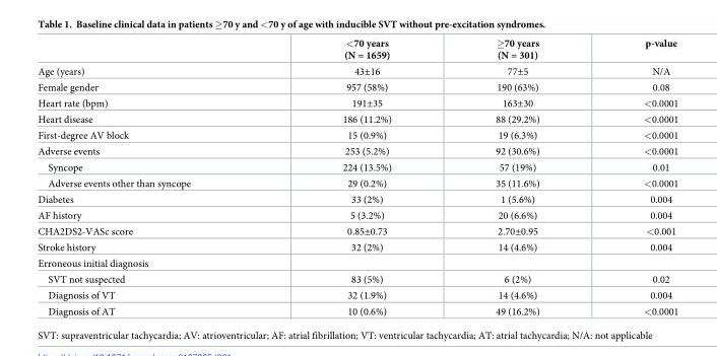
<table><thead><tr><td></td><td>&lt;70 years (N = 1659)</td><td>≥70 years (N = 301)</td><td>p-value</td></tr></thead><tbody><tr><td>Age (years)</td><td>43±16</td><td>77±5</td><td>N/A</td></tr><tr><td>Female gender</td><td>957 (58%)</td><td>190 (63%)</td><td>0.08</td></tr><tr><td>Heart rate (bpm)</td><td>191±35</td><td>163±30</td><td>&lt;0.0001</td></tr><tr><td>Heart disease</td><td>186 (11.2%)</td><td>88 (29.2%)</td><td>&lt;0.0001</td></tr><tr><td>First-degree AV block</td><td>15 (0.9%)</td><td>19 (6.3%)</td><td>&lt;0.0001</td></tr><tr><td>Adverse events</td><td>253 (5.2%)</td><td>92 (30.6%)</td><td>&lt;0.0001</td></tr><tr><td>Syncope</td><td>224 (13.5%)</td><td>57 (19%)</td><td>0.01</td></tr><tr><td>Adverse events other than syncope</td><td>29 (0.2%)</td><td>35 (11.6%)</td><td>&lt;0.0001</td></tr><tr><td>Diabetes</td><td>33 (2%)</td><td>1 (5.6%)</td><td>0.004</td></tr><tr><td>AF history</td><td>5 (3.2%)</td><td>20 (6.6%)</td><td>0.004</td></tr><tr><td>CHA2DS2-VASc score</td><td>0.85±0.73</td><td>2.70±0.95</td><td>&lt;0.001</td></tr><tr><td>Stroke history</td><td>32 (2%)</td><td>14 (4.6%)</td><td>0.004</td></tr><tr><td colspan="4">Erroneous initial diagnosis</td></tr><tr><td>SVT not suspected</td><td>83 (5%)</td><td>6 (2%)</td><td>0.02</td></tr><tr><td>Diagnosis of VT</td><td>32 (1.9%)</td><td>14 (4.6%)</td><td>0.004</td></tr><tr><td>Diagnosis of AT</td><td>10 (0.6%)</td><td>49 (16.2%)</td><td>&lt;0.0001</td></tr></tbody></table>